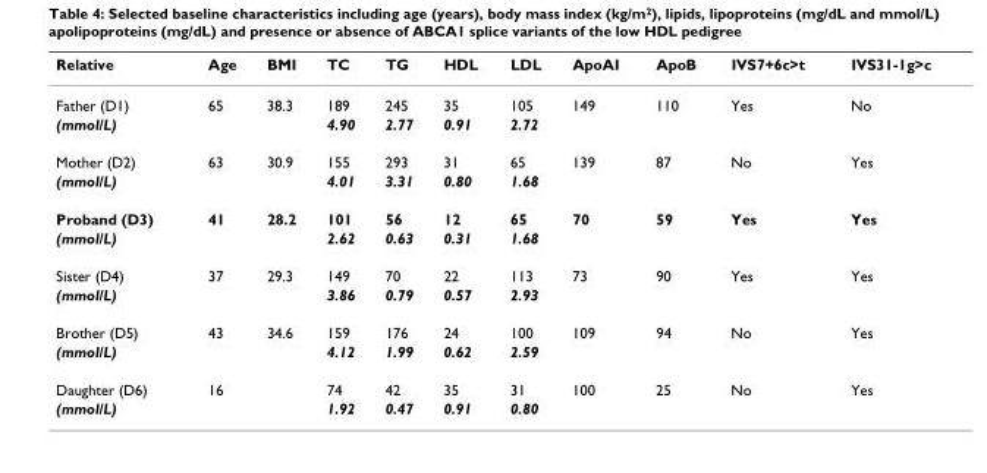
<table><thead><tr><td>Relative</td><td>Age</td><td>BMI</td><td>TC</td><td>TG</td><td>HDL</td><td>LDL</td><td>ApoAI</td><td>ApoB</td><td>IVS7+6c&gt;t</td><td>IVS31-1g&gt;c</td></tr></thead><tbody><tr><td>Father (D1)</td><td>65</td><td>38.3</td><td>189</td><td>245</td><td>35</td><td>105</td><td>149</td><td>110</td><td>Yes</td><td>No</td></tr><tr><td>(mmol/L)</td><td></td><td></td><td>4.90</td><td>2.77</td><td>0.91</td><td>2.72</td><td></td><td></td><td></td><td></td></tr><tr><td>Mother (D2)</td><td>63</td><td>30.9</td><td>155</td><td>293</td><td>31</td><td>65</td><td>139</td><td>87</td><td>No</td><td>Yes</td></tr><tr><td>(mmol/L)</td><td></td><td></td><td>4.01</td><td>3.31</td><td>0.80</td><td>1.68</td><td></td><td></td><td></td><td></td></tr><tr><td>Proband (D3)</td><td>41</td><td>28.2</td><td>101</td><td>56</td><td>12</td><td>65</td><td>70</td><td>59</td><td>Yes</td><td>Yes</td></tr><tr><td>(mmol/L)</td><td></td><td></td><td>2.62</td><td>0.63</td><td>0.31</td><td>1.68</td><td></td><td></td><td></td><td></td></tr><tr><td>Sister (D4)</td><td>37</td><td>29.3</td><td>149</td><td>70</td><td>22</td><td>113</td><td>73</td><td>90</td><td>Yes</td><td>Yes</td></tr><tr><td>(mmol/L)</td><td></td><td></td><td>3.86</td><td>0.79</td><td>0.57</td><td>2.93</td><td></td><td></td><td></td><td></td></tr><tr><td>Brother (D5)</td><td>43</td><td>34.6</td><td>159</td><td>176</td><td>24</td><td>100</td><td>109</td><td>94</td><td>No</td><td>Yes</td></tr><tr><td>(mmol/L)</td><td></td><td></td><td>4.12</td><td>1.99</td><td>0.62</td><td>2.59</td><td></td><td></td><td></td><td></td></tr><tr><td>Daughter (D6)</td><td>16</td><td></td><td>74</td><td>42</td><td>35</td><td>31</td><td>100</td><td>25</td><td>No</td><td>Yes</td></tr><tr><td>(mmol/L)</td><td></td><td></td><td>1.92</td><td>0.47</td><td>0.91</td><td>0.80</td><td></td><td></td><td></td><td></td></tr></tbody></table>